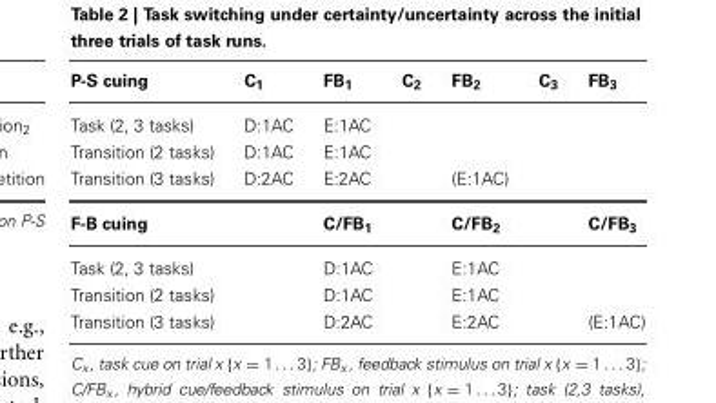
<table><thead><tr><td>P-S cuing</td><td>C<sub>1</sub></td><td>FB<sub>1</sub></td><td>C<sub>2</sub></td><td>FB<sub>2</sub></td><td>C<sub>3</sub></td><td>FB<sub>3</sub></td></tr></thead><tbody><tr><td>Task (2, 3 tasks)</td><td>D:1AC</td><td>E:1AC</td><td></td><td></td><td></td><td></td></tr><tr><td>Transition (2 tasks)</td><td>D:1AC</td><td>E:1AC</td><td></td><td></td><td></td><td></td></tr><tr><td>Transition (3 tasks)</td><td>D:2AC</td><td>E:2AC</td><td></td><td>(E:1AC)</td><td></td><td></td></tr><tr><td>F-B cuing</td><td></td><td>C/FB<sub>1</sub></td><td></td><td>C/FB<sub>2</sub></td><td></td><td>C/FB<sub>3</sub></td></tr><tr><td>Task (2, 3 tasks)</td><td></td><td>D:1AC</td><td></td><td>E:1AC</td><td></td><td></td></tr><tr><td>Transition (2 tasks)</td><td></td><td>D:1AC</td><td></td><td>E:1AC</td><td></td><td></td></tr><tr><td>Transition (3 tasks)</td><td></td><td>D:2AC</td><td></td><td>E:2AC</td><td></td><td>(E:1AC)</td></tr></tbody></table>